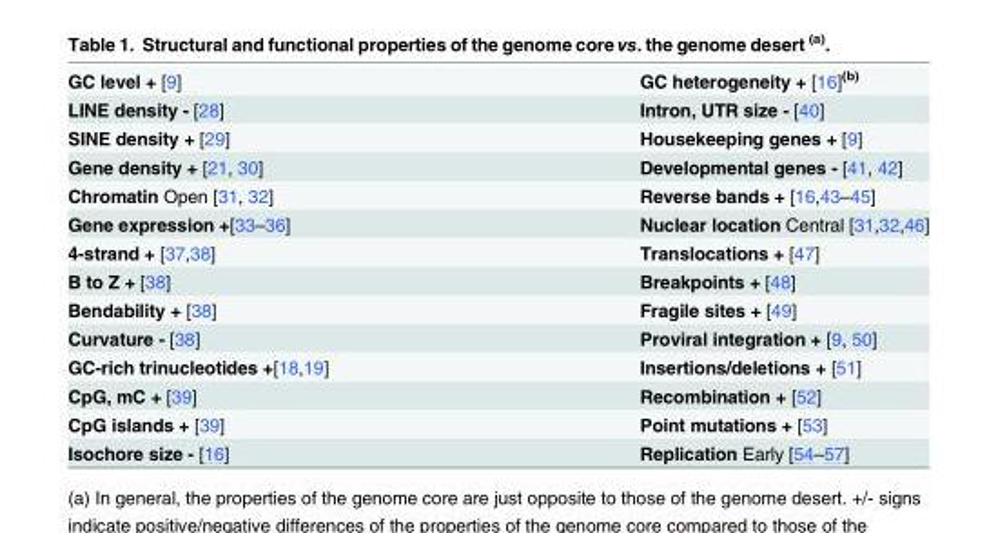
<table><tbody><tr><td>GC level + [9]</td><td>GC heterogeneity + [16]<sup>(b)</sup></td></tr><tr><td>LINE density - [28]</td><td>Intron, UTR size - [40]</td></tr><tr><td>SINE density + [29]</td><td>Housekeeping genes + [9]</td></tr><tr><td>Gene density + [21, 30]</td><td>Developmental genes - [41, 42]</td></tr><tr><td>Chromatin Open [31, 32]</td><td>Reverse bands + [16,43–45]</td></tr><tr><td>Gene expression +[33–36]</td><td>Nuclear location Central [31,32,46]</td></tr><tr><td>4-strand + [37,38]</td><td>Translocations + [47]</td></tr><tr><td>B to Z + [38]</td><td>Breakpoints + [48]</td></tr><tr><td>Bendability + [38]</td><td>Fragile sites + [49]</td></tr><tr><td>Curvature - [38]</td><td>Proviral integration + [9, 50]</td></tr><tr><td>GC-rich trinucleotides +[18,19]</td><td>Insertions/deletions + [51]</td></tr><tr><td>CpG, mC + [39]</td><td>Recombination + [52]</td></tr><tr><td>CpG islands + [39]</td><td>Point mutations + [53]</td></tr><tr><td>Isochore size - [16]</td><td>Replication Early [54–57]</td></tr></tbody></table>